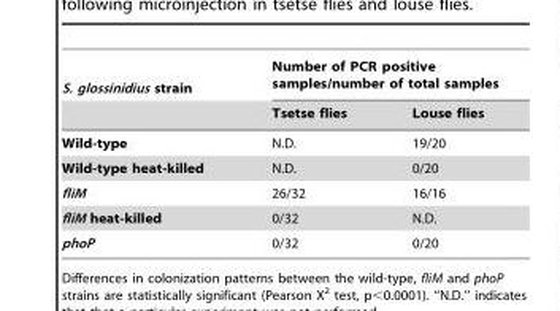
<table><thead><tr><td rowspan="2">S. glossinidius strain</td><td colspan="2">Number of PCR positive samples/number of total samples</td></tr><tr><td>Tsetse flies</td><td>Louse flies</td></tr></thead><tbody><tr><td>Wild-type</td><td>N.D.</td><td>19/20</td></tr><tr><td>Wild-type heat-killed</td><td>N.D.</td><td>0/20</td></tr><tr><td>fliM</td><td>26/32</td><td>16/16</td></tr><tr><td>fliM heat-killed</td><td>0/32</td><td>N.D.</td></tr><tr><td>phoP</td><td>0/32</td><td>0/20</td></tr></tbody></table>